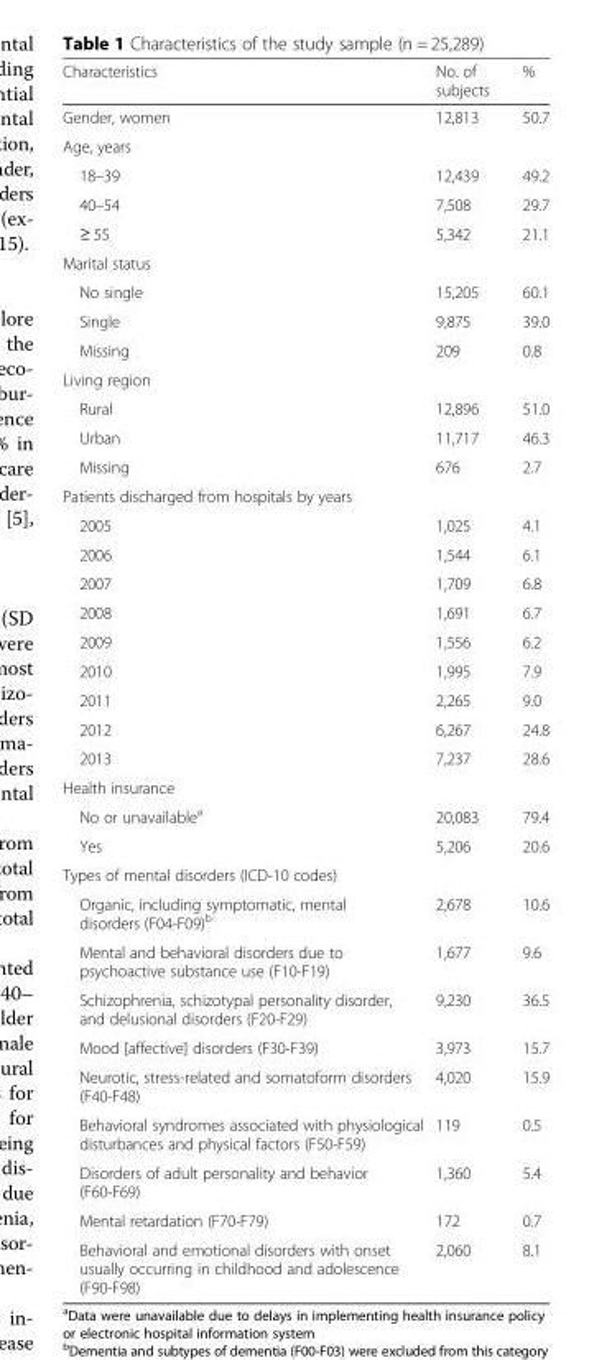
<table><thead><tr><td>Characteristics</td><td>No. of subjects</td><td>%</td></tr></thead><tbody><tr><td>Gender, women</td><td>12,813</td><td>50.7</td></tr><tr><td colspan="3">Age, years</td></tr><tr><td>18–39</td><td>12,439</td><td>49.2</td></tr><tr><td>40–54</td><td>7,508</td><td>29.7</td></tr><tr><td>≥ 55</td><td>5,342</td><td>21.1</td></tr><tr><td colspan="3">Marital status</td></tr><tr><td>No single</td><td>15,205</td><td>60.1</td></tr><tr><td>Single</td><td>9,875</td><td>39.0</td></tr><tr><td>Missing</td><td>209</td><td>0.8</td></tr><tr><td colspan="3">Living region</td></tr><tr><td>Rural</td><td>12,896</td><td>51.0</td></tr><tr><td>Urban</td><td>11,717</td><td>46.3</td></tr><tr><td>Missing</td><td>676</td><td>2.7</td></tr><tr><td colspan="3">Patients discharged from hospitals by years</td></tr><tr><td>2005</td><td>1,025</td><td>4.1</td></tr><tr><td>2006</td><td>1,544</td><td>6.1</td></tr><tr><td>2007</td><td>1,709</td><td>6.8</td></tr><tr><td>2008</td><td>1,691</td><td>6.7</td></tr><tr><td>2009</td><td>1,556</td><td>6.2</td></tr><tr><td>2010</td><td>1,995</td><td>7.9</td></tr><tr><td>2011</td><td>2,265</td><td>9.0</td></tr><tr><td>2012</td><td>6,267</td><td>24.8</td></tr><tr><td>2013</td><td>7,237</td><td>28.6</td></tr><tr><td colspan="3">Health insurance</td></tr><tr><td>No or unavailable<sup>a</sup></td><td>20,083</td><td>79.4</td></tr><tr><td>Yes</td><td>5,206</td><td>20.6</td></tr><tr><td colspan="3">Types of mental disorders (ICD-10 codes)</td></tr><tr><td>Organic, including symptomatic, mental disorders (F04-F09)<sup>b</sup></td><td>2,678</td><td>10.6</td></tr><tr><td>Mental and behavioral disorders due to psychoactive substance use (F10-F19)</td><td>1,677</td><td>9.6</td></tr><tr><td>Schizophrenia, schizotypal personality disorder, and delusional disorders (F20-F29)</td><td>9,230</td><td>36.5</td></tr><tr><td>Mood [affective] disorders (F30-F39)</td><td>3,973</td><td>15.7</td></tr><tr><td>Neurotic, stress-related and somatoform disorders (F40-F48)</td><td>4,020</td><td>15.9</td></tr><tr><td>Behavioral syndromes associated with physiological disturbances and physical factors (F50-F59)</td><td>119</td><td>0.5</td></tr><tr><td>Disorders of adult personality and behavior (F60-F69)</td><td>1,360</td><td>5.4</td></tr><tr><td>Mental retardation (F70-F79)</td><td>172</td><td>0.7</td></tr><tr><td>Behavioral and emotional disorders with onset usually occurring in childhood and adolescence (F90-F98)</td><td>2,060</td><td>8.1</td></tr></tbody></table>